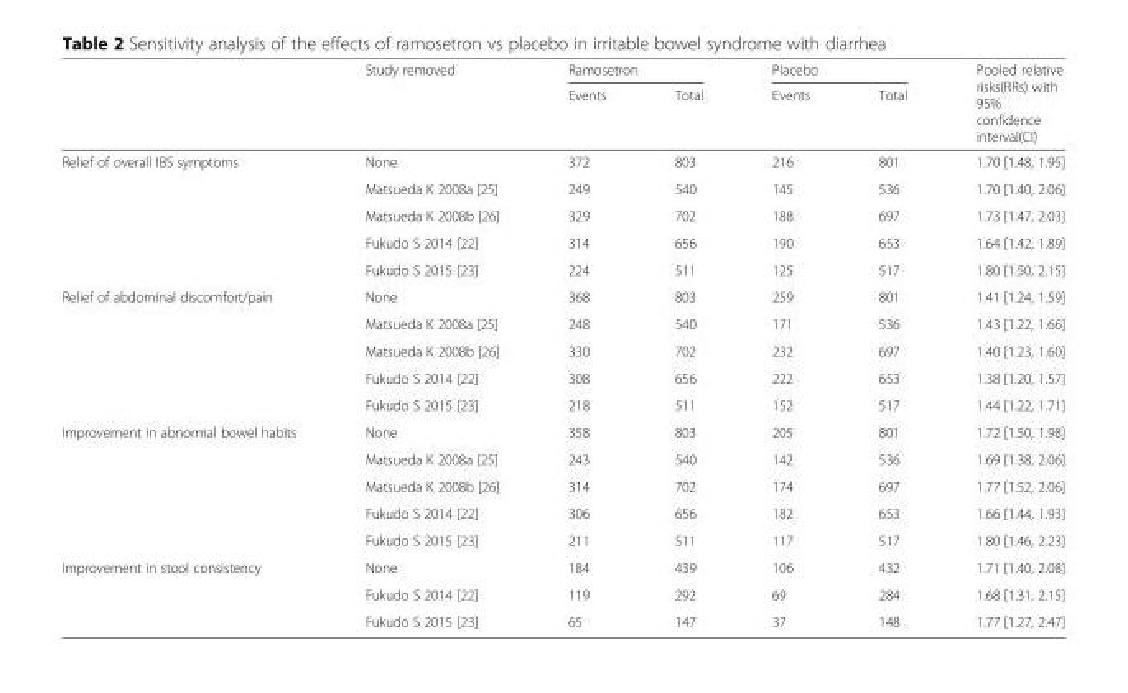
<table><thead><tr><td rowspan="2"></td><td rowspan="2">Study removed</td><td colspan="2">Ramosetron</td><td colspan="2">Placebo</td><td rowspan="2">Pooled relative risks(RRs) with 95% confidence interval(CI)</td></tr><tr><td>Events</td><td>Total</td><td>Events</td><td>Total</td></tr></thead><tbody><tr><td rowspan="5">Relief of overall IBS symptoms</td><td>None</td><td>372</td><td>803</td><td>216</td><td>801</td><td>1.70 [1.48, 1.95]</td></tr><tr><td>Matsueda K 2008a [25]</td><td>249</td><td>540</td><td>145</td><td>536</td><td>1.70 [1.40, 2.06]</td></tr><tr><td>Matsueda K 2008b [26]</td><td>329</td><td>702</td><td>188</td><td>697</td><td>1.73 [1.47, 2.03]</td></tr><tr><td>Fukudo S 2014 [22]</td><td>314</td><td>656</td><td>190</td><td>653</td><td>1.64 [1.42, 1.89]</td></tr><tr><td>Fukudo S 2015 [23]</td><td>224</td><td>511</td><td>125</td><td>517</td><td>1.80 [1.50, 2.15]</td></tr><tr><td rowspan="5">Relief of abdominal discomfort/pain</td><td>None</td><td>368</td><td>803</td><td>259</td><td>801</td><td>1.41 [1.24, 1.59]</td></tr><tr><td>Matsueda K 2008a [25]</td><td>248</td><td>540</td><td>171</td><td>536</td><td>1.43 [1.22, 1.66]</td></tr><tr><td>Matsueda K 2008b [26]</td><td>330</td><td>702</td><td>232</td><td>697</td><td>1.40 [1.23, 1.60]</td></tr><tr><td>Fukudo S 2014 [22]</td><td>308</td><td>656</td><td>222</td><td>653</td><td>1.38 [1.20, 1.57]</td></tr><tr><td>Fukudo S 2015 [23]</td><td>218</td><td>511</td><td>152</td><td>517</td><td>1.44 [1.22, 1.71]</td></tr><tr><td rowspan="5">Improvement in abnormal bowel habits</td><td>None</td><td>358</td><td>803</td><td>205</td><td>801</td><td>1.72 [1.50, 1.98]</td></tr><tr><td>Matsueda K 2008a [25]</td><td>243</td><td>540</td><td>142</td><td>536</td><td>1.69 [1.38, 2.06]</td></tr><tr><td>Matsueda K 2008b [26]</td><td>314</td><td>702</td><td>174</td><td>697</td><td>1.77 [1.52, 2.06]</td></tr><tr><td>Fukudo S 2014 [22]</td><td>306</td><td>656</td><td>182</td><td>653</td><td>1.66 [1.44, 1.93]</td></tr><tr><td>Fukudo S 2015 [23]</td><td>211</td><td>511</td><td>117</td><td>517</td><td>1.80 [1.46, 2.23]</td></tr><tr><td rowspan="3">Improvement in stool consistency</td><td>None</td><td>184</td><td>439</td><td>106</td><td>432</td><td>1.71 [1.40, 2.08]</td></tr><tr><td>Fukudo S 2014 [22]</td><td>119</td><td>292</td><td>69</td><td>284</td><td>1.68 [1.31, 2.15]</td></tr><tr><td>Fukudo S 2015 [23]</td><td>65</td><td>147</td><td>37</td><td>148</td><td>1.77 [1.27, 2.47]</td></tr></tbody></table>